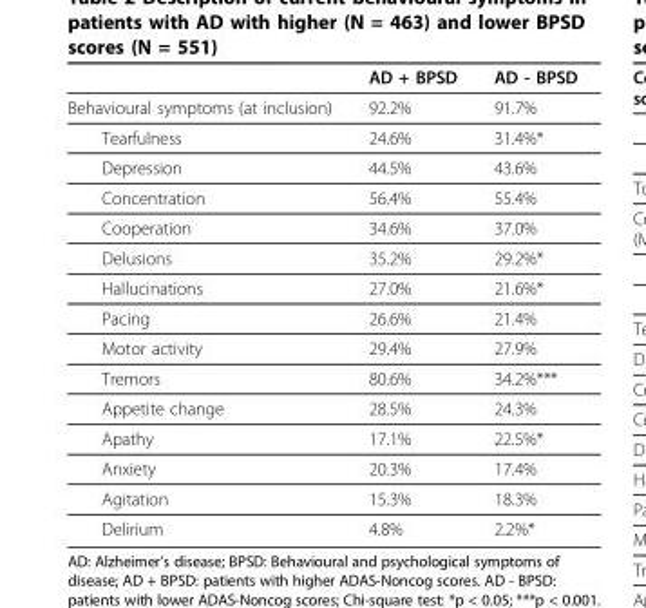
<table><thead><tr><td></td><td>AD + BPSD</td><td>AD - BPSD</td></tr></thead><tbody><tr><td>Behavioural symptoms (at inclusion)</td><td>92.2%</td><td>91.7%</td></tr><tr><td>Tearfulness</td><td>24.6%</td><td>31.4%*</td></tr><tr><td>Depression</td><td>44.5%</td><td>43.6%</td></tr><tr><td>Concentration</td><td>56.4%</td><td>55.4%</td></tr><tr><td>Cooperation</td><td>34.6%</td><td>37.0%</td></tr><tr><td>Delusions</td><td>35.2%</td><td>29.2%*</td></tr><tr><td>Hallucinations</td><td>27.0%</td><td>21.6%*</td></tr><tr><td>Pacing</td><td>26.6%</td><td>21.4%</td></tr><tr><td>Motor activity</td><td>29.4%</td><td>27.9%</td></tr><tr><td>Tremors</td><td>80.6%</td><td>34.2%***</td></tr><tr><td>Appetite change</td><td>28.5%</td><td>24.3%</td></tr><tr><td>Apathy</td><td>17.1%</td><td>22.5%*</td></tr><tr><td>Anxiety</td><td>20.3%</td><td>17.4%</td></tr><tr><td>Agitation</td><td>15.3%</td><td>18.3%</td></tr><tr><td>Delirium</td><td>4.8%</td><td>2.2%*</td></tr></tbody></table>